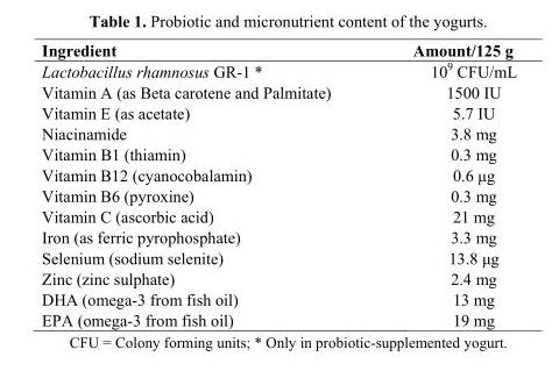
<table><thead><tr><td>Ingredient</td><td>Amount/125 g</td></tr></thead><tbody><tr><td>Lactobacillus rhamnosus GR-1 *</td><td>10<sup>9</sup> CFU/mL</td></tr><tr><td>Vitamin A (as Beta carotene and Palmitate)</td><td>1500 IU</td></tr><tr><td>Vitamin E (as acetate)</td><td>5.7 IU</td></tr><tr><td>Niacinamide</td><td>3.8 mg</td></tr><tr><td>Vitamin B1 (thiamin)</td><td>0.3 mg</td></tr><tr><td>Vitamin B12 (cyanocobalamin)</td><td>0.6 μg</td></tr><tr><td>Vitamin B6 (pyroxine)</td><td>0.3 mg</td></tr><tr><td>Vitamin C (ascorbic acid)</td><td>21 mg</td></tr><tr><td>Iron (as ferric pyrophosphate)</td><td>3.3 mg</td></tr><tr><td>Selenium (sodium selenite)</td><td>13.8 μg</td></tr><tr><td>Zinc (zinc sulphate)</td><td>2.4 mg</td></tr><tr><td>DHA (omega-3 from fish oil)</td><td>13 mg</td></tr><tr><td>EPA (omega-3 from fish oil)</td><td>19 mg</td></tr></tbody></table>